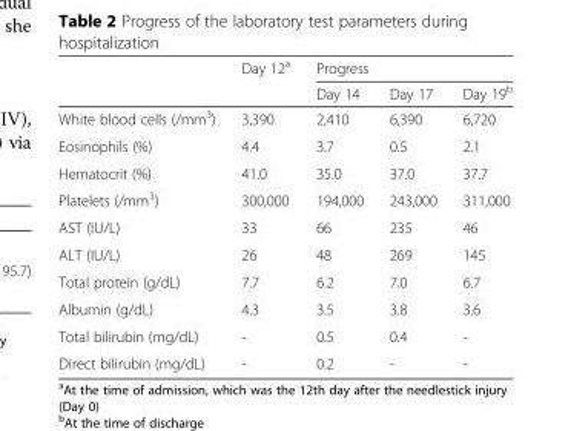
<table><thead><tr><td rowspan="2"></td><td rowspan="2">Day 12<sup>a</sup></td><td colspan="3">Progress</td></tr><tr><td>Day 14</td><td>Day 17</td><td>Day 19<sup>b</sup></td></tr></thead><tbody><tr><td>White blood cells (/mm<sup>3</sup>)</td><td>3,390</td><td>2,410</td><td>6,390</td><td>6,720</td></tr><tr><td>Eosinophils (%)</td><td>4.4</td><td>3.7</td><td>0.5</td><td>2.1</td></tr><tr><td>Hematocrit (%)</td><td>41.0</td><td>35.0</td><td>37.0</td><td>37.7</td></tr><tr><td>Platelets (/mm<sup>3</sup>)</td><td>300,000</td><td>194,000</td><td>243,000</td><td>311,000</td></tr><tr><td>AST (IU/L)</td><td>33</td><td>66</td><td>235</td><td>46</td></tr><tr><td>ALT (IU/L)</td><td>26</td><td>48</td><td>269</td><td>145</td></tr><tr><td>Total protein (g/dL)</td><td>7.7</td><td>6.2</td><td>7.0</td><td>6.7</td></tr><tr><td>Albumin (g/dL)</td><td>4.3</td><td>3.5</td><td>3.8</td><td>3.6</td></tr><tr><td>Total bilirubin (mg/dL)</td><td>-</td><td>0.5</td><td>0.4</td><td>-</td></tr><tr><td>Direct bilirubin (mg/dL)</td><td>-</td><td>0.2</td><td>-</td><td>-</td></tr></tbody></table>